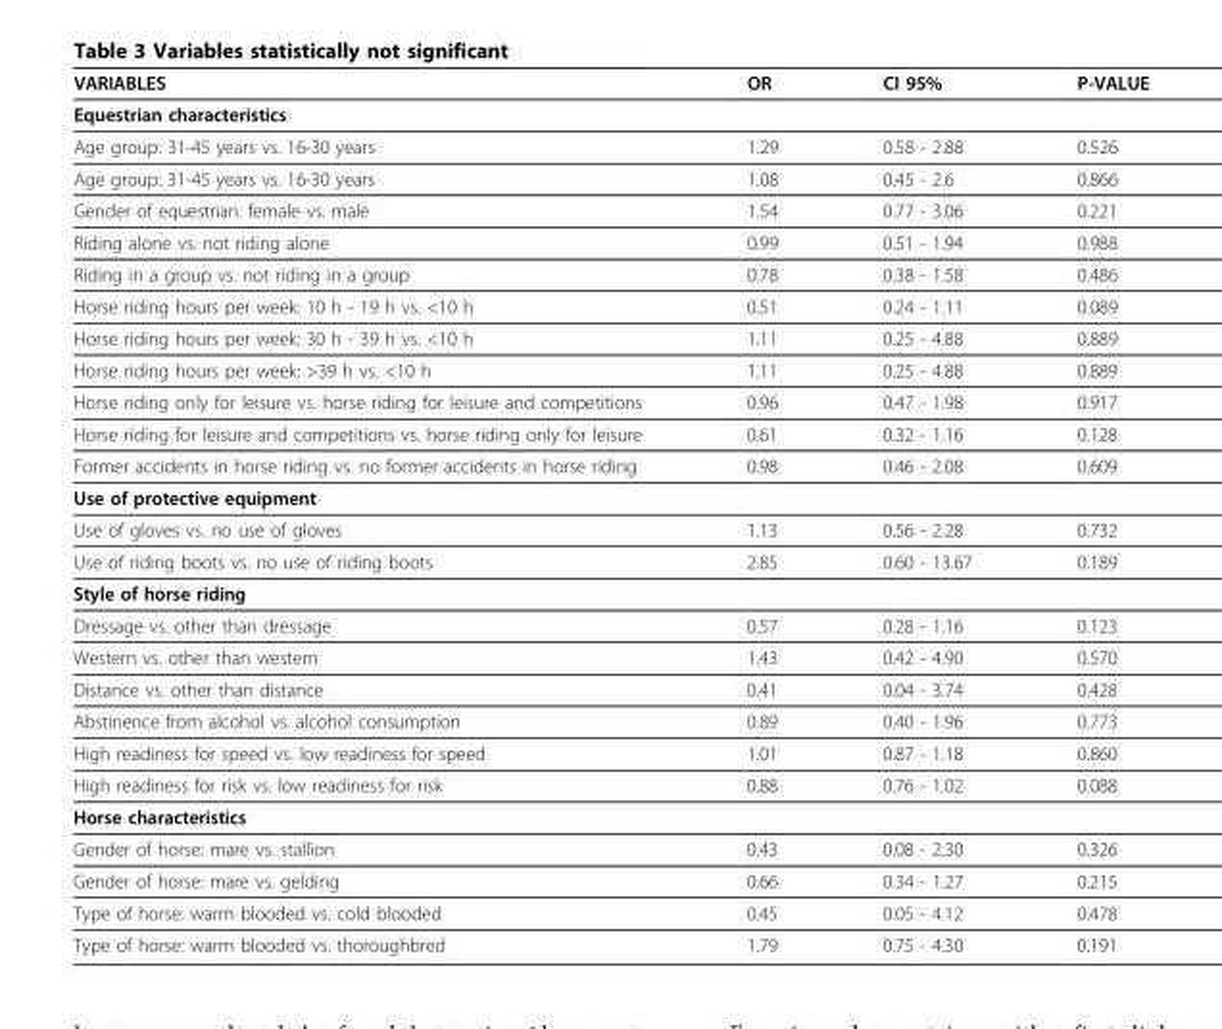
<table><thead><tr><td>VARIABLES</td><td>OR</td><td>CI 95%</td><td>P-VALUE</td></tr></thead><tbody><tr><td colspan="4">Equestrian characteristics</td></tr><tr><td>Age group: 31-45 years vs. 16-30 years</td><td>1.29</td><td>0.58 - 2.88</td><td>0.526</td></tr><tr><td>Age group: 31-45 years vs. 16-30 years</td><td>1.08</td><td>0.45 - 2.6</td><td>0.866</td></tr><tr><td>Gender of equestrian: female vs. male</td><td>1.54</td><td>0.77 - 3.06</td><td>0.221</td></tr><tr><td>Riding alone vs. not riding alone</td><td>0.99</td><td>0.51 - 1.94</td><td>0.988</td></tr><tr><td>Riding in a group vs. not riding in a group</td><td>0.78</td><td>0.38 - 1.58</td><td>0.486</td></tr><tr><td>Horse riding hours per week: 10 h - 19 h vs. &lt;10 h</td><td>0.51</td><td>0.24 - 1.11</td><td>0.089</td></tr><tr><td>Horse riding hours per week: 30 h - 39 h vs. &lt;10 h</td><td>1.11</td><td>0.25 - 4.88</td><td>0.889</td></tr><tr><td>Horse riding hours per week: &gt;39 h vs. &lt;10 h</td><td>1.11</td><td>0.25 - 4.88</td><td>0.889</td></tr><tr><td>Horse riding only for leisure vs. horse riding for leisure and competitions</td><td>0.96</td><td>0.47 - 1.98</td><td>0.917</td></tr><tr><td>Horse riding for leisure and competitions vs. horse riding only for leisure</td><td>0.61</td><td>0.32 - 1.16</td><td>0.128</td></tr><tr><td>Former accidents in horse riding vs. no former accidents in horse riding</td><td>0.98</td><td>0.46 - 2.08</td><td>0.609</td></tr><tr><td colspan="4">Use of protective equipment</td></tr><tr><td>Use of gloves vs. no use of gloves</td><td>1.13</td><td>0.56 - 2.28</td><td>0.732</td></tr><tr><td>Use of riding boots vs. no use of riding boots</td><td>2.85</td><td>0.60 - 13.67</td><td>0.189</td></tr><tr><td colspan="4">Style of horse riding</td></tr><tr><td>Dressage vs. other than dressage</td><td>0.57</td><td>0.28 - 1.16</td><td>0.123</td></tr><tr><td>Western vs. other than western</td><td>1.43</td><td>0.42 - 4.90</td><td>0.570</td></tr><tr><td>Distance vs. other than distance</td><td>0.41</td><td>0.04 - 3.74</td><td>0.428</td></tr><tr><td>Abstinence from alcohol vs. alcohol consumption</td><td>0.89</td><td>0.40 - 1.96</td><td>0.773</td></tr><tr><td>High readiness for speed vs. low readiness for speed</td><td>1.01</td><td>0.87 - 1.18</td><td>0.860</td></tr><tr><td>High readiness for risk vs. low readiness for risk</td><td>0.88</td><td>0.76 - 1.02</td><td>0.088</td></tr><tr><td colspan="4">Horse characteristics</td></tr><tr><td>Gender of horse: mare vs. stallion</td><td>0.43</td><td>0.08 - 2.30</td><td>0.326</td></tr><tr><td>Gender of horse: mare vs. gelding</td><td>0.66</td><td>0.34 - 1.27</td><td>0.215</td></tr><tr><td>Type of horse: warm blooded vs. cold blooded</td><td>0.45</td><td>0.05 - 4.12</td><td>0.478</td></tr><tr><td>Type of horse: warm blooded vs. thoroughbred</td><td>1.79</td><td>0.75 - 4.30</td><td>0.191</td></tr></tbody></table>